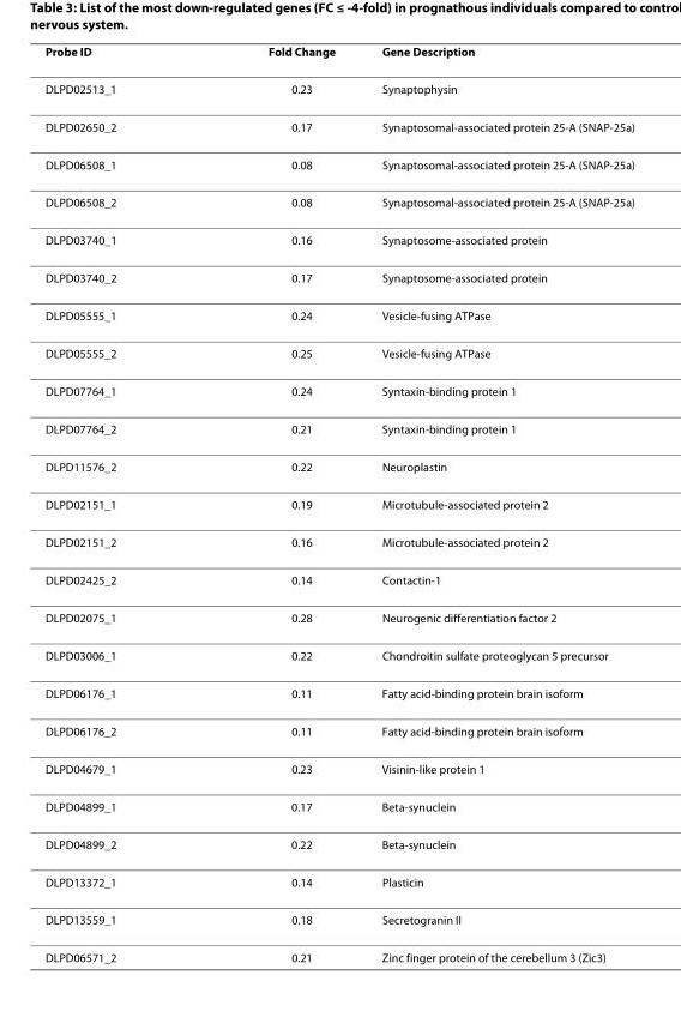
<table><thead><tr><td>Probe ID</td><td>Fold Change</td><td>Gene Description</td></tr></thead><tbody><tr><td>DLPD02513_1</td><td>0.23</td><td>Synaptophysin</td></tr><tr><td>DLPD02650_2</td><td>0.17</td><td>Synaptosomal-associated protein 25-A (SNAP-25a)</td></tr><tr><td>DLPD06508_1</td><td>0.08</td><td>Synaptosomal-associated protein 25-A (SNAP-25a)</td></tr><tr><td>DLPD06508_2</td><td>0.08</td><td>Synaptosomal-associated protein 25-A (SNAP-25a)</td></tr><tr><td>DLPD03740_1</td><td>0.16</td><td>Synaptosome-associated protein</td></tr><tr><td>DLPD03740_2</td><td>0.17</td><td>Synaptosome-associated protein</td></tr><tr><td>DLPD05555_1</td><td>0.24</td><td>Vesicle-fusing ATPase</td></tr><tr><td>DLPD05555_2</td><td>0.25</td><td>Vesicle-fusing ATPase</td></tr><tr><td>DLPD07764_1</td><td>0.24</td><td>Syntaxin-binding protein 1</td></tr><tr><td>DLPD07764_2</td><td>0.21</td><td>Syntaxin-binding protein 1</td></tr><tr><td>DLPD11576_2</td><td>0.22</td><td>Neuroplastin</td></tr><tr><td>DLPD02151_1</td><td>0.19</td><td>Microtubule-associated protein 2</td></tr><tr><td>DLPD02151_2</td><td>0.16</td><td>Microtubule-associated protein 2</td></tr><tr><td>DLPD02425_2</td><td>0.14</td><td>Contactin-1</td></tr><tr><td>DLPD02075_1</td><td>0.28</td><td>Neurogenic differentiation factor 2</td></tr><tr><td>DLPD03006_1</td><td>0.22</td><td>Chondroitin sulfate proteoglycan 5 precursor</td></tr><tr><td>DLPD06176_1</td><td>0.11</td><td>Fatty acid-binding protein brain isoform</td></tr><tr><td>DLPD06176_2</td><td>0.11</td><td>Fatty acid-binding protein brain isoform</td></tr><tr><td>DLPD04679_1</td><td>0.23</td><td>Visinin-like protein 1</td></tr><tr><td>DLPD04899_1</td><td>0.17</td><td>Beta-synuclein</td></tr><tr><td>DLPD04899_2</td><td>0.22</td><td>Beta-synuclein</td></tr><tr><td>DLPD13372_1</td><td>0.14</td><td>Plasticin</td></tr><tr><td>DLPD13559_1</td><td>0.18</td><td>Secretogranin II</td></tr><tr><td>DLPD06571_2</td><td>0.21</td><td>Zinc finger protein of the cerebellum 3 (Zic3)</td></tr></tbody></table>